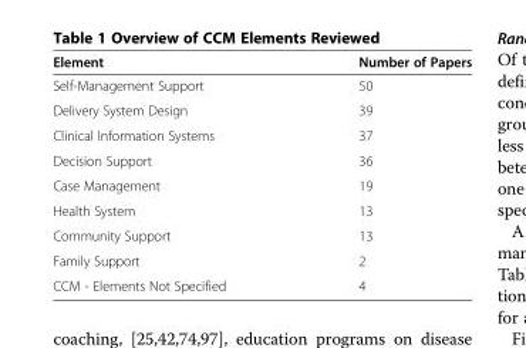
<table><thead><tr><td>Element</td><td>Number of Papers</td></tr></thead><tbody><tr><td>Self-Management Support</td><td>50</td></tr><tr><td>Delivery System Design</td><td>39</td></tr><tr><td>Clinical Information Systems</td><td>37</td></tr><tr><td>Decision Support</td><td>36</td></tr><tr><td>Case Management</td><td>19</td></tr><tr><td>Health System</td><td>13</td></tr><tr><td>Community Support</td><td>13</td></tr><tr><td>Family Support</td><td>2</td></tr><tr><td>CCM - Elements Not Specified</td><td>4</td></tr></tbody></table>